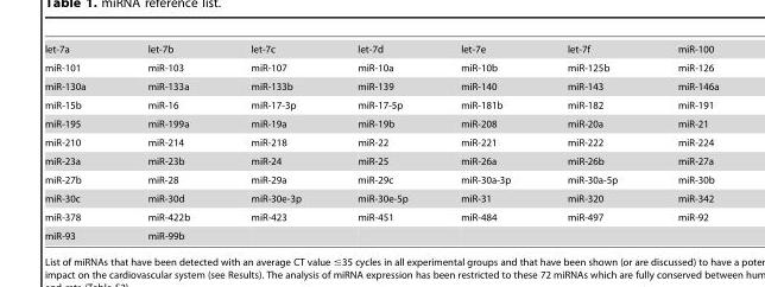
<table><tbody><tr><td>let-7a</td><td>let-7b</td><td>let-7c</td><td>let-7d</td><td>let-7e</td><td>let-7f</td><td>miR-100</td></tr><tr><td>miR-101</td><td>miR-103</td><td>miR-107</td><td>miR-10a</td><td>miR-10b</td><td>miR-125b</td><td>miR-126</td></tr><tr><td>miR-130a</td><td>miR-133a</td><td>miR-133b</td><td>miR-139</td><td>miR-140</td><td>miR-143</td><td>miR-146a</td></tr><tr><td>miR-15b</td><td>miR-16</td><td>miR-17-3p</td><td>miR-17-5p</td><td>miR-181b</td><td>miR-182</td><td>miR-191</td></tr><tr><td>miR-195</td><td>miR-199a</td><td>miR-19a</td><td>miR-19b</td><td>miR-208</td><td>miR-20a</td><td>miR-21</td></tr><tr><td>miR-210</td><td>miR-214</td><td>miR-218</td><td>miR-22</td><td>miR-221</td><td>miR-222</td><td>miR-224</td></tr><tr><td>miR-23a</td><td>miR-23b</td><td>miR-24</td><td>miR-25</td><td>miR-26a</td><td>miR-26b</td><td>miR-27a</td></tr><tr><td>miR-27b</td><td>miR-28</td><td>miR-29a</td><td>miR-29c</td><td>miR-30a-3p</td><td>miR-30a-5p</td><td>miR-30b</td></tr><tr><td>miR-30c</td><td>miR-30d</td><td>miR-30e-3p</td><td>miR-30e-5p</td><td>miR-31</td><td>miR-320</td><td>miR-342</td></tr><tr><td>miR-378</td><td>miR-422b</td><td>miR-423</td><td>miR-451</td><td>miR-484</td><td>miR-497</td><td>miR-92</td></tr><tr><td>miR-93</td><td>miR-99b</td><td></td><td></td><td></td><td></td><td></td></tr></tbody></table>